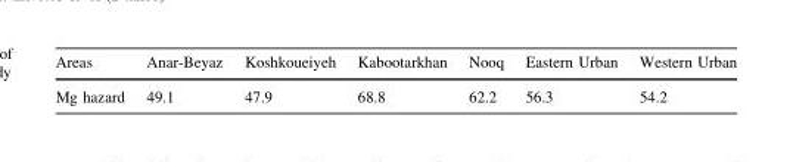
<table><thead><tr><td>Areas</td><td>Anar-Beyaz</td><td>Koshkoueiyeh</td><td>Kabootarkhan</td><td>Nooq</td><td>Eastern Urban</td><td>Western Urban</td></tr></thead><tbody><tr><td>Mg hazard</td><td>49.1</td><td>47.9</td><td>68.8</td><td>62.2</td><td>56.3</td><td>54.2</td></tr></tbody></table>